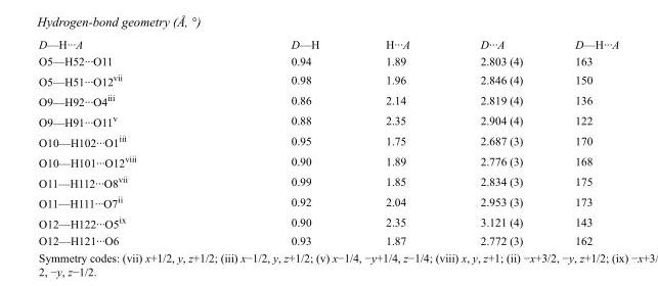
<table><tbody><tr><td>D—H···A</td><td>D—H</td><td>H···A</td><td>D···A</td><td>D—H···A</td></tr><tr><td>O5—H52···O11</td><td>0.94</td><td>1.89</td><td>2.803 (4)</td><td>163</td></tr><tr><td>O5—H51···O12<sup>vii</sup></td><td>0.98</td><td>1.96</td><td>2.846 (4)</td><td>150</td></tr><tr><td>O9—H92···O4<sup>iii</sup></td><td>0.86</td><td>2.14</td><td>2.819 (4)</td><td>136</td></tr><tr><td>O9—H91···O11<sup>v</sup></td><td>0.88</td><td>2.35</td><td>2.904 (4)</td><td>122</td></tr><tr><td>O10—H102···O1<sup>iii</sup></td><td>0.95</td><td>1.75</td><td>2.687 (3)</td><td>170</td></tr><tr><td>O10—H101···O12<sup>viii</sup></td><td>0.90</td><td>1.89</td><td>2.776 (3)</td><td>168</td></tr><tr><td>O11—H112···O8<sup>vii</sup></td><td>0.99</td><td>1.85</td><td>2.834 (3)</td><td>175</td></tr><tr><td>O11—H111···O7<sup>ii</sup></td><td>0.92</td><td>2.04</td><td>2.953 (3)</td><td>173</td></tr><tr><td>O12—H122···O5<sup>ix</sup></td><td>0.90</td><td>2.35</td><td>3.121 (4)</td><td>143</td></tr><tr><td>O12—H121···O6</td><td>0.93</td><td>1.87</td><td>2.772 (3)</td><td>162</td></tr></tbody></table>